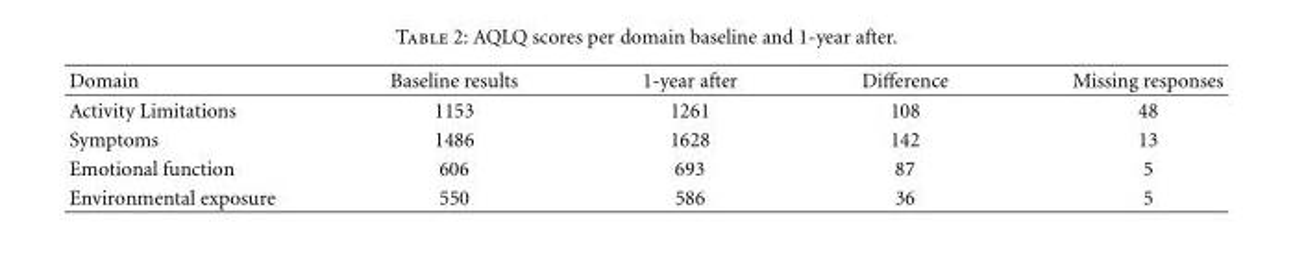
<table><thead><tr><td>Domain</td><td>Baseline results</td><td>1-year after</td><td>Difference</td><td>Missing responses</td></tr></thead><tbody><tr><td>Activity Limitations</td><td>1153</td><td>1261</td><td>108</td><td>48</td></tr><tr><td>Symptoms</td><td>1486</td><td>1628</td><td>142</td><td>13</td></tr><tr><td>Emotional function</td><td>606</td><td>693</td><td>87</td><td>5</td></tr><tr><td>Environmental exposure</td><td>550</td><td>586</td><td>36</td><td>5</td></tr></tbody></table>